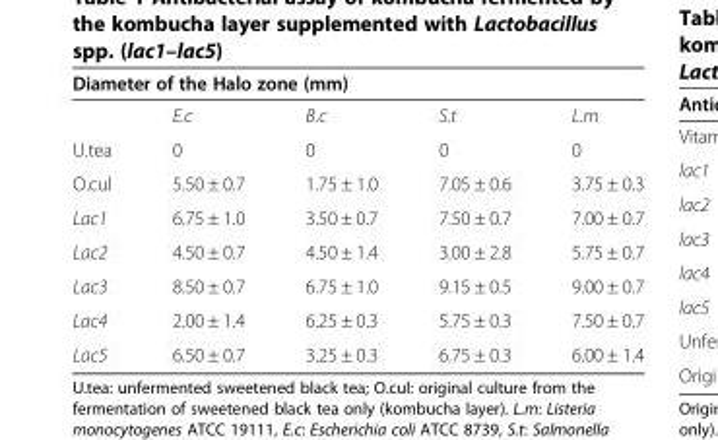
<table><thead><tr><td colspan="5">Diameter of the Halo zone (mm)</td></tr><tr><td></td><td>E.c</td><td>B.c</td><td>S.t</td><td>L.m</td></tr></thead><tbody><tr><td>U.tea</td><td>0</td><td>0</td><td>0</td><td>0</td></tr><tr><td>O.cul</td><td>5.50 ± 0.7</td><td>1.75 ± 1.0</td><td>7.05 ± 0.6</td><td>3.75 ± 0.3</td></tr><tr><td>Lac1</td><td>6.75 ± 1.0</td><td>3.50 ± 0.7</td><td>7.50 ± 0.7</td><td>7.00 ± 0.7</td></tr><tr><td>Lac2</td><td>4.50 ± 0.7</td><td>4.50 ± 1.4</td><td>3.00 ± 2.8</td><td>5.75 ± 0.7</td></tr><tr><td>Lac3</td><td>8.50 ± 0.7</td><td>6.75 ± 1.0</td><td>9.15 ± 0.5</td><td>9.00 ± 0.7</td></tr><tr><td>Lac4</td><td>2.00 ± 1.4</td><td>6.25 ± 0.3</td><td>5.75 ± 0.3</td><td>7.50 ± 0.7</td></tr><tr><td>Lac5</td><td>6.50 ± 0.7</td><td>3.25 ± 0.3</td><td>6.75 ± 0.3</td><td>6.00 ± 1.4</td></tr></tbody></table>